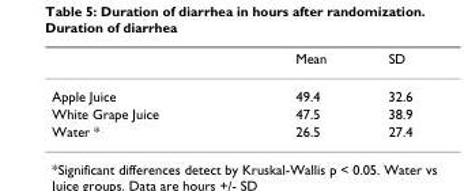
<table><thead><tr><td></td><td>Mean</td><td>SD</td></tr></thead><tbody><tr><td>Apple Juice</td><td>49.4</td><td>32.6</td></tr><tr><td>White Grape Juice</td><td>47.5</td><td>38.9</td></tr><tr><td>Water *</td><td>26.5</td><td>27.4</td></tr></tbody></table>